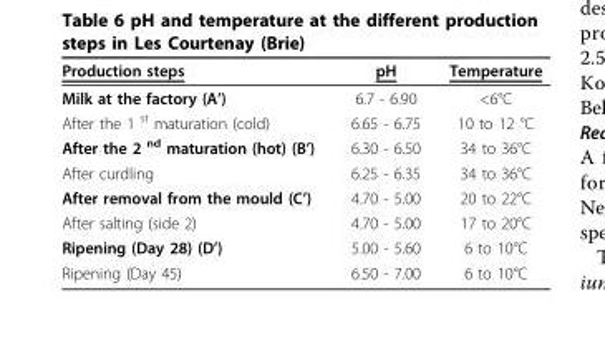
<table><thead><tr><td>Production steps</td><td>pH</td><td>Temperature</td></tr></thead><tbody><tr><td>Milk at the factory (A’)</td><td>6.7 - 6.90</td><td>&lt;6°C</td></tr><tr><td>After the 1 <sup>st</sup> maturation (cold)</td><td>6.65 - 6.75</td><td>10 to 12 °C</td></tr><tr><td>After the 2 <sup>nd</sup> maturation (hot) (B’)</td><td>6.30 - 6.50</td><td>34 to 36°C</td></tr><tr><td>After curdling</td><td>6.25 - 6.35</td><td>34 to 36°C</td></tr><tr><td>After removal from the mould (C’)</td><td>4.70 - 5.00</td><td>20 to 22°C</td></tr><tr><td>After salting (side 2)</td><td>4.70 - 5.00</td><td>17 to 20°C</td></tr><tr><td>Ripening (Day 28) (D’)</td><td>5.00 - 5.60</td><td>6 to 10°C</td></tr><tr><td>Ripening (Day 45)</td><td>6.50 - 7.00</td><td>6 to 10°C</td></tr></tbody></table>